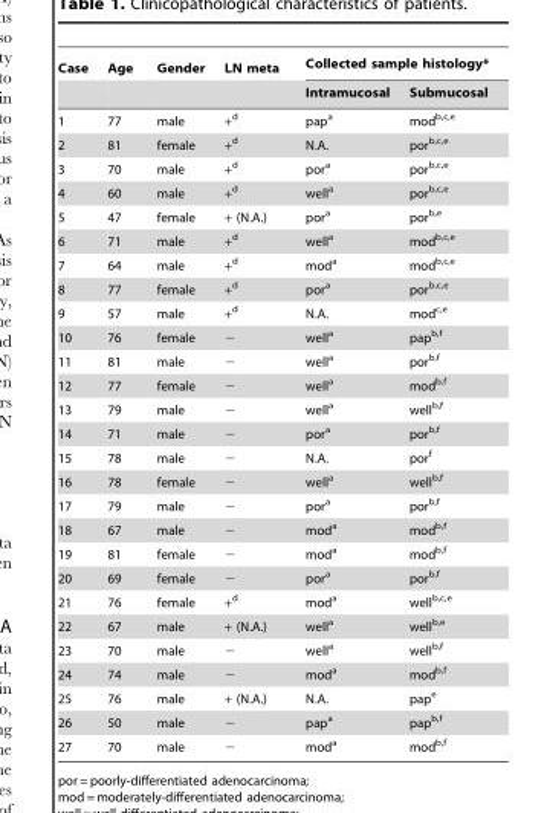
<table><thead><tr><td rowspan="2">Case</td><td rowspan="2">Age</td><td rowspan="2">Gender</td><td rowspan="2">LN meta</td><td colspan="2">Collected sample histology*</td></tr><tr><td>Intramucosal</td><td>Submucosal</td></tr></thead><tbody><tr><td>1</td><td>77</td><td>male</td><td>+<sup>d</sup></td><td>pap<sup>a</sup></td><td>mod<sup>b,</sup>c<sup>,</sup>e</td></tr><tr><td>2</td><td>81</td><td>female</td><td>+<sup>d</sup></td><td>N.A.</td><td>por<sup>b,</sup>c<sup>,</sup>e</td></tr><tr><td>3</td><td>70</td><td>male</td><td>+<sup>d</sup></td><td>por<sup>a</sup></td><td>por<sup>b,</sup>c<sup>,</sup>e</td></tr><tr><td>4</td><td>60</td><td>male</td><td>+<sup>d</sup></td><td>well<sup>a</sup></td><td>por<sup>b,</sup>c<sup>,</sup>e</td></tr><tr><td>5</td><td>47</td><td>female</td><td>+ (N.A.)</td><td>por<sup>a</sup></td><td>por<sup>b,</sup>e</td></tr><tr><td>6</td><td>71</td><td>male</td><td>+<sup>d</sup></td><td>well<sup>a</sup></td><td>mod<sup>b,</sup>c<sup>,</sup>e</td></tr><tr><td>7</td><td>64</td><td>male</td><td>+<sup>d</sup></td><td>mod<sup>a</sup></td><td>mod<sup>b,</sup>c<sup>,</sup>e</td></tr><tr><td>8</td><td>77</td><td>female</td><td>+<sup>d</sup></td><td>por<sup>a</sup></td><td>por<sup>b,</sup>c<sup>,</sup>e</td></tr><tr><td>9</td><td>57</td><td>male</td><td>+<sup>d</sup></td><td>N.A.</td><td>mod<sup>c,</sup>e</td></tr><tr><td>10</td><td>76</td><td>female</td><td>−</td><td>well<sup>a</sup></td><td>pap<sup>b,</sup>f</td></tr><tr><td>11</td><td>81</td><td>male</td><td>−</td><td>well<sup>a</sup></td><td>por<sup>b,</sup>f</td></tr><tr><td>12</td><td>77</td><td>female</td><td>−</td><td>well<sup>a</sup></td><td>mod<sup>b,</sup>f</td></tr><tr><td>13</td><td>79</td><td>male</td><td>−</td><td>well<sup>a</sup></td><td>well<sup>b,</sup>f</td></tr><tr><td>14</td><td>71</td><td>male</td><td>−</td><td>por<sup>a</sup></td><td>por<sup>b,</sup>f</td></tr><tr><td>15</td><td>78</td><td>male</td><td>−</td><td>N.A.</td><td>por<sup>f</sup></td></tr><tr><td>16</td><td>78</td><td>female</td><td>−</td><td>well<sup>a</sup></td><td>well<sup>b,</sup>f</td></tr><tr><td>17</td><td>79</td><td>male</td><td>−</td><td>por<sup>a</sup></td><td>por<sup>b,</sup>f</td></tr><tr><td>18</td><td>67</td><td>male</td><td>−</td><td>mod<sup>a</sup></td><td>mod<sup>b,</sup>f</td></tr><tr><td>19</td><td>81</td><td>female</td><td>−</td><td>mod<sup>a</sup></td><td>mod<sup>b,</sup>f</td></tr><tr><td>20</td><td>69</td><td>female</td><td>−</td><td>por<sup>a</sup></td><td>por<sup>b,</sup>f</td></tr><tr><td>21</td><td>76</td><td>female</td><td>+<sup>d</sup></td><td>mod<sup>a</sup></td><td>well<sup>b,</sup>c<sup>,</sup>e</td></tr><tr><td>22</td><td>67</td><td>male</td><td>+ (N.A.)</td><td>well<sup>a</sup></td><td>well<sup>b,</sup>e</td></tr><tr><td>23</td><td>70</td><td>male</td><td>−</td><td>well<sup>a</sup></td><td>well<sup>b,</sup>f</td></tr><tr><td>24</td><td>74</td><td>male</td><td>−</td><td>mod<sup>a</sup></td><td>mod<sup>b,</sup>f</td></tr><tr><td>25</td><td>76</td><td>male</td><td>+ (N.A.)</td><td>N.A.</td><td>pap<sup>e</sup></td></tr><tr><td>26</td><td>50</td><td>male</td><td>−</td><td>pap<sup>a</sup></td><td>pap<sup>b,</sup>f</td></tr><tr><td>27</td><td>70</td><td>male</td><td>−</td><td>mod<sup>a</sup></td><td>mod<sup>b,</sup>f</td></tr></tbody></table>